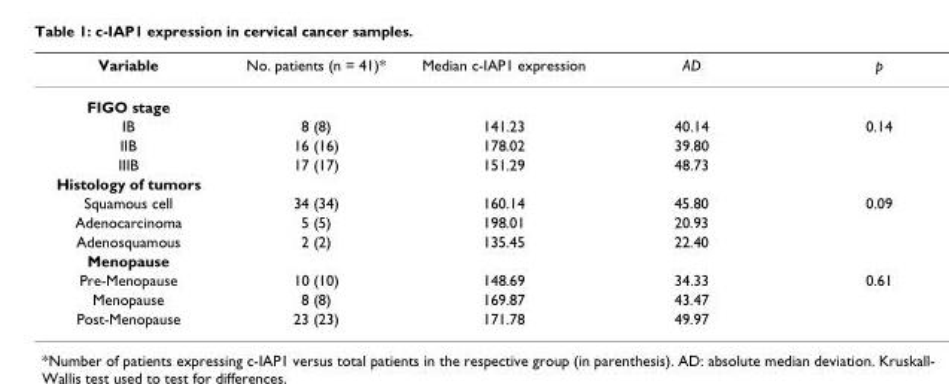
<table><thead><tr><td>Variable</td><td>No. patients (n = 41)*</td><td>Median c-IAP1 expression</td><td>AD</td><td>p</td></tr></thead><tbody><tr><td colspan="5">FIGO stage</td></tr><tr><td>IB</td><td>8 (8)</td><td>141.23</td><td>40.14</td><td>0.14</td></tr><tr><td>IIB</td><td>16 (16)</td><td>178.02</td><td>39.80</td><td></td></tr><tr><td>IIIB</td><td>17 (17)</td><td>151.29</td><td>48.73</td><td></td></tr><tr><td colspan="5">Histology of tumors</td></tr><tr><td>Squamous cell</td><td>34 (34)</td><td>160.14</td><td>45.80</td><td>0.09</td></tr><tr><td>Adenocarcinoma</td><td>5 (5)</td><td>198.01</td><td>20.93</td><td></td></tr><tr><td>Adenosquamous</td><td>2 (2)</td><td>135.45</td><td>22.40</td><td></td></tr><tr><td colspan="5">Menopause</td></tr><tr><td>Pre-Menopause</td><td>10 (10)</td><td>148.69</td><td>34.33</td><td>0.61</td></tr><tr><td>Menopause</td><td>8 (8)</td><td>169.87</td><td>43.47</td><td></td></tr><tr><td>Post-Menopause</td><td>23 (23)</td><td>171.78</td><td>49.97</td><td></td></tr></tbody></table>